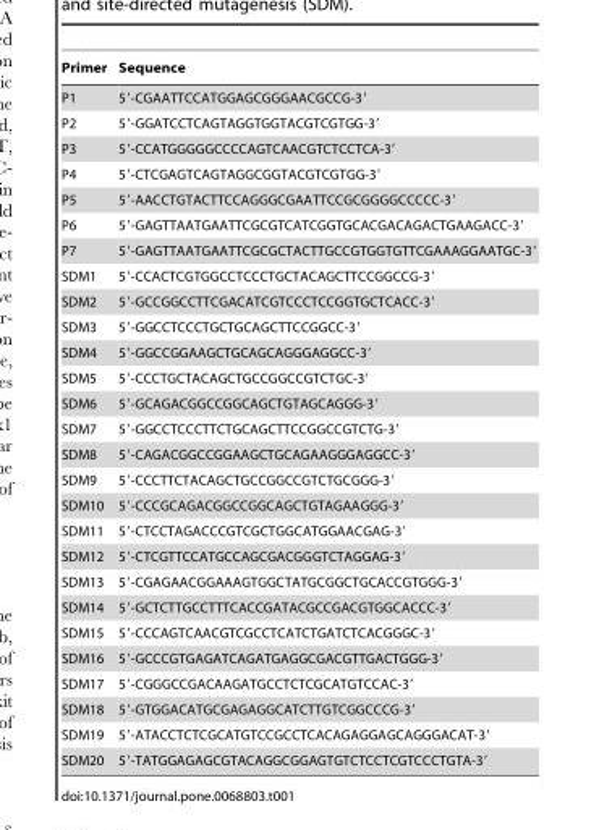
<table><thead><tr><td>Primer</td><td>Sequence</td></tr></thead><tbody><tr><td>P1</td><td>5′-CGAATTCCATGGAGCGGGAACGCCG-3′</td></tr><tr><td>P2</td><td>5′-GGATCCTCAGTAGGTGGTACGTCGTGG-3′</td></tr><tr><td>P3</td><td>5′-CCATGGGGGCCCCAGTCAACGTCTCCTCA-3′</td></tr><tr><td>P4</td><td>5′-CTCGAGTCAGTAGGCGGTACGTCGTGG-3′</td></tr><tr><td>P5</td><td>5′-AACCTGTACTTCCAGGGCGAATTCCGCGGGGCCCCC-3′</td></tr><tr><td>P6</td><td>5′-GAGTTAATGAATTCGCGTCATCGGTGCACGACAGACTGAAGACC-3′</td></tr><tr><td>P7</td><td>5′-GAGTTAATGAATTCGCGCTACTTGCCGTGGTGTTCGAAAGGAATGC-3′</td></tr><tr><td>SDM1</td><td>5′-CCACTCGTGGCCTCCCTGCTACAGCTTCCGGCCG-3′</td></tr><tr><td>SDM2</td><td>5′-GCCGGCCTTCGACATCGTCCCTCCGGTGCTCACC-3′</td></tr><tr><td>SDM3</td><td>5′-GGCCTCCCTGCTGCAGCTTCCGGCC-3′</td></tr><tr><td>SDM4</td><td>5′-GGCCGGAAGCTGCAGCAGGGAGGCC-3′</td></tr><tr><td>SDM5</td><td>5′-CCCTGCTACAGCTGCCGGCCGTCTGC-3′</td></tr><tr><td>SDM6</td><td>5′-GCAGACGGCCGGCAGCTGTAGCAGGG-3′</td></tr><tr><td>SDM7</td><td>5′-GGCCTCCCTTCTGCAGCTTCCGGCCGTCTG-3′</td></tr><tr><td>SDM8</td><td>5′-CAGACGGCCGGAAGCTGCAGAAGGGAGGCC-3′</td></tr><tr><td>SDM9</td><td>5′-CCCTTCTACAGCTGCCGGCCGTCTGCGGG-3′</td></tr><tr><td>SDM10</td><td>5′-CCCGCAGACGGCCGGCAGCTGTAGAAGGG-3′</td></tr><tr><td>SDM11</td><td>5′-CTCCTAGACCCGTCGCTGGCATGGAACGAG-3′</td></tr><tr><td>SDM12</td><td>5′-CTCGTTCCATGCCAGCGACGGGTCTAGGAG-3′</td></tr><tr><td>SDM13</td><td>5′-CGAGAACGGAAAGTGGCTATGCGGCTGCACCGTGGG-3′</td></tr><tr><td>SDM14</td><td>5′-GCTCTTGCCTTTCACCGATACGCCGACGTGGCACCC-3′</td></tr><tr><td>SDM15</td><td>5′-CCCAGTCAACGTCGCCTCATCTGATCTCACGGGC-3′</td></tr><tr><td>SDM16</td><td>5′-GCCCGTGAGATCAGATGAGGCGACGTTGACTGGG-3′</td></tr><tr><td>SDM17</td><td>5′-CGGGCCGACAAGATGCCTCTCGCATGTCCAC-3′</td></tr><tr><td>SDM18</td><td>5′-GTGGACATGCGAGAGGCATCTTGTCGGCCCG-3′</td></tr><tr><td>SDM19</td><td>5′-ATACCTCTCGCATGTCCGCCTCACAGAGGAGCAGGGACAT-3′</td></tr><tr><td>SDM20</td><td>5′-TATGGAGAGCGTACAGGCGGAGTGTCTCCTCGTCCCTGTA-3′</td></tr></tbody></table>